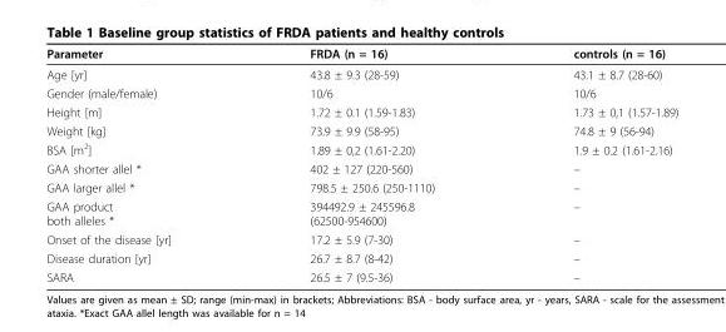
<table><thead><tr><td>Parameter</td><td>FRDA (n = 16)</td><td>controls (n = 16)</td></tr></thead><tbody><tr><td>Age [yr]</td><td>43.8 ± 9.3 (28-59)</td><td>43.1 ± 8.7 (28-60)</td></tr><tr><td>Gender (male/female)</td><td>10/6</td><td>10/6</td></tr><tr><td>Height [m]</td><td>1.72 ± 0.1 (1.59-1.83)</td><td>1.73 ± 0,1 (1.57-1.89)</td></tr><tr><td>Weight [kg]</td><td>73.9 ± 9.9 (58-95)</td><td>74.8 ± 9 (56-94)</td></tr><tr><td>BSA [m<sup>2</sup>]</td><td>1.89 ± 0,2 (1.61-2.20)</td><td>1.9 ± 0.2 (1.61-2.16)</td></tr><tr><td>GAA shorter allel *</td><td>402 ± 127 (220-560)</td><td>–</td></tr><tr><td>GAA larger allel *</td><td>798.5 ± 250.6 (250-1110)</td><td>–</td></tr><tr><td>GAA product both alleles *</td><td>394492.9 ± 245596.8 (62500-954600)</td><td>–</td></tr><tr><td>Onset of the disease [yr]</td><td>17.2 ± 5.9 (7-30)</td><td>–</td></tr><tr><td>Disease duration [yr]</td><td>26.7 ± 8.7 (8-42)</td><td>–</td></tr><tr><td>SARA</td><td>26.5 ± 7 (9.5-36)</td><td>–</td></tr></tbody></table>